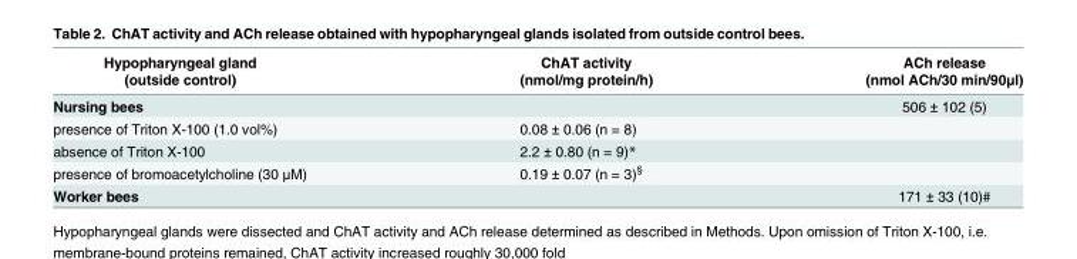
<table><thead><tr><td rowspan="2">Hypopharyngeal gland (outside control)</td><td rowspan="2">ChAT activity (nmol/mg protein/h)</td><td rowspan="2">ACh release (nmol ACh/30 min/90μl)</td></tr><tr></tr></thead><tbody><tr><td colspan="2">Nursing bees</td><td>506 ± 102 (5)</td></tr><tr><td>presence of Triton X-100 (1.0 vol%)</td><td>0.08 ± 0.06 (n = 8)</td><td></td></tr><tr><td>absence of Triton X-100</td><td>2.2 ± 0.80 (n = 9)*</td><td></td></tr><tr><td>presence of bromoacetylcholine (30 μM)</td><td>0.19 ± 0.07 (n = 3)<sup>§</sup></td><td></td></tr><tr><td colspan="2">Worker bees</td><td>171 ± 33 (10)#</td></tr></tbody></table>